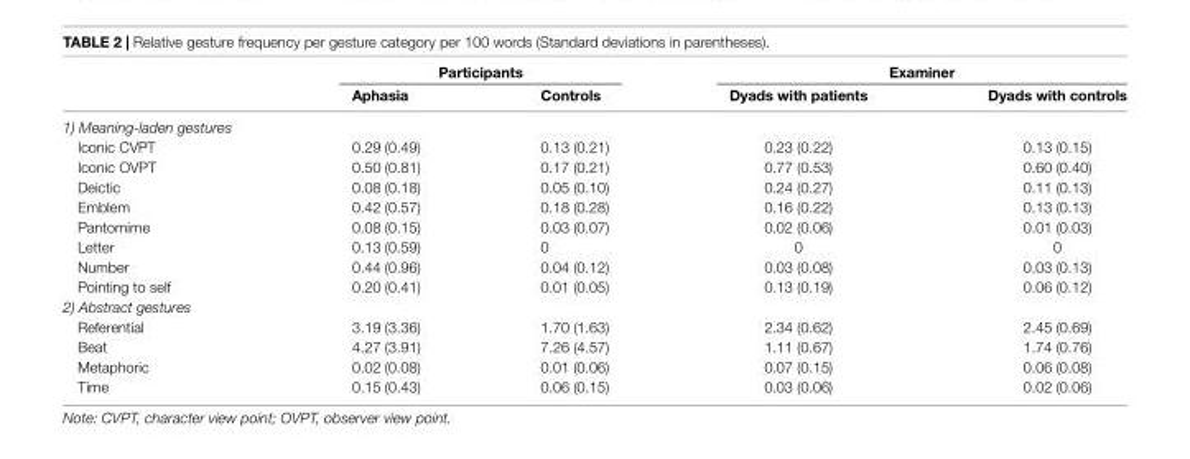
<table><thead><tr><td rowspan="2"></td><td colspan="2">Participants</td><td colspan="2">Examiner</td></tr><tr><td>Aphasia</td><td>Controls</td><td>Dyads with patients</td><td>Dyads with controls</td></tr></thead><tbody><tr><td colspan="5">1) Meaning-laden gestures</td></tr><tr><td>Iconic CVPT</td><td>0.29 (0.49)</td><td>0.13 (0.21)</td><td>0.23 (0.22)</td><td>0.13 (0.15)</td></tr><tr><td>Iconic OVPT</td><td>0.50 (0.81)</td><td>0.17 (0.21)</td><td>0.77 (0.53)</td><td>0.60 (0.40)</td></tr><tr><td>Deictic</td><td>0.08 (0.18)</td><td>0.05 (0.10)</td><td>0.24 (0.27)</td><td>0.11 (0.13)</td></tr><tr><td>Emblem</td><td>0.42 (0.57)</td><td>0.18 (0.28)</td><td>0.16 (0.22)</td><td>0.13 (0.13)</td></tr><tr><td>Pantomime</td><td>0.08 (0.15)</td><td>0.03 (0.07)</td><td>0.02 (0.06)</td><td>0.01 (0.03)</td></tr><tr><td>Letter</td><td>0.13 (0.59)</td><td>0</td><td>0</td><td>0</td></tr><tr><td>Number</td><td>0.44 (0.96)</td><td>0.04 (0.12)</td><td>0.03 (0.08)</td><td>0.03 (0.13)</td></tr><tr><td>Pointing to self</td><td>0.20 (0.41)</td><td>0.01 (0.05)</td><td>0.13 (0.19)</td><td>0.06 (0.12)</td></tr><tr><td colspan="5">2) Abstract gestures</td></tr><tr><td>Referential</td><td>3.19 (3.36)</td><td>1.70 (1.63)</td><td>2.34 (0.62)</td><td>2.45 (0.69)</td></tr><tr><td>Beat</td><td>4.27 (3.91)</td><td>7.26 (4.57)</td><td>1.11 (0.67)</td><td>1.74 (0.76)</td></tr><tr><td>Metaphoric</td><td>0.02 (0.08)</td><td>0.01 (0.06)</td><td>0.07 (0.15)</td><td>0.06 (0.08)</td></tr><tr><td>Time</td><td>0.15 (0.43)</td><td>0.06 (0.15)</td><td>0.03 (0.06)</td><td>0.02 (0.06)</td></tr></tbody></table>